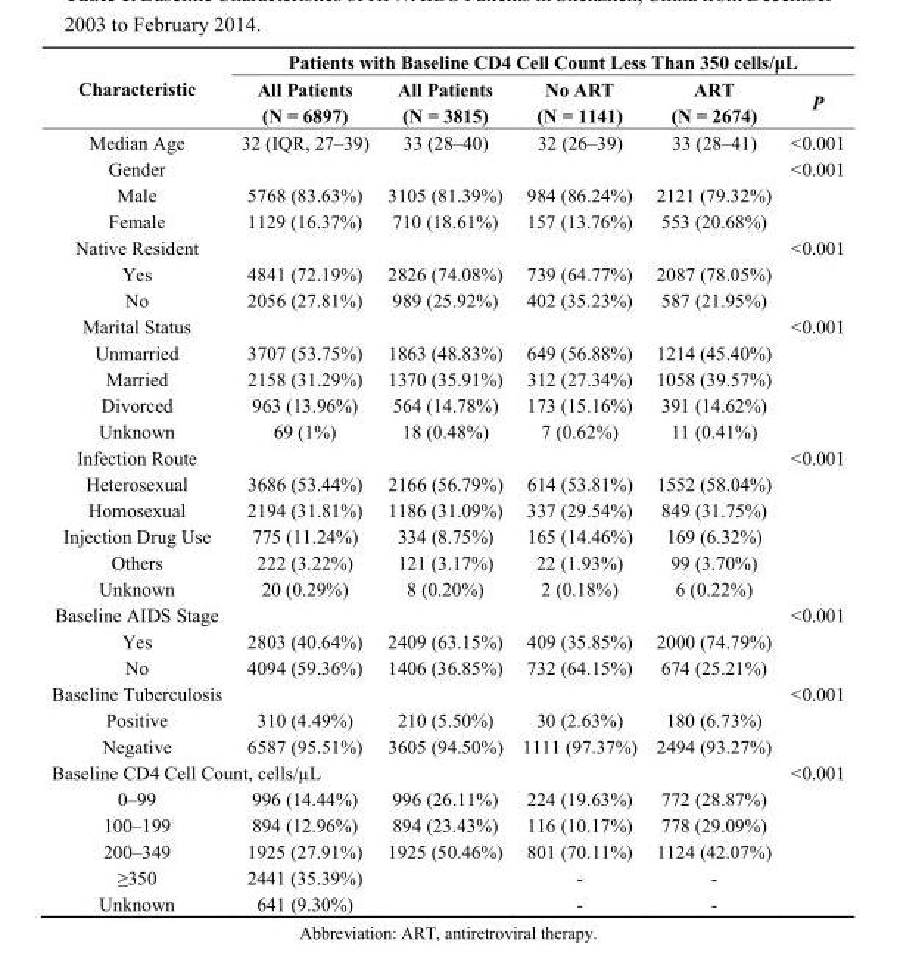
<table><thead><tr><td rowspan="2">Characteristic</td><td colspan="5">Patients with Baseline CD4 Cell Count Less Than 350 cells/μL</td></tr><tr><td>All Patients (N = 6897)</td><td>All Patients (N = 3815)</td><td>No ART (N = 1141)</td><td>ART (N = 2674)</td><td>P</td></tr></thead><tbody><tr><td>Median Age</td><td>32 (IQR, 27–39)</td><td>33 (28–40)</td><td>32 (26–39)</td><td>33 (28–41)</td><td>&lt;0.001</td></tr><tr><td>Gender</td><td></td><td></td><td></td><td></td><td>&lt;0.001</td></tr><tr><td>Male</td><td>5768 (83.63%)</td><td>3105 (81.39%)</td><td>984 (86.24%)</td><td>2121 (79.32%)</td><td></td></tr><tr><td>Female</td><td>1129 (16.37%)</td><td>710 (18.61%)</td><td>157 (13.76%)</td><td>553 (20.68%)</td><td></td></tr><tr><td>Native Resident</td><td></td><td></td><td></td><td></td><td>&lt;0.001</td></tr><tr><td>Yes</td><td>4841 (72.19%)</td><td>2826 (74.08%)</td><td>739 (64.77%)</td><td>2087 (78.05%)</td><td></td></tr><tr><td>No</td><td>2056 (27.81%)</td><td>989 (25.92%)</td><td>402 (35.23%)</td><td>587 (21.95%)</td><td></td></tr><tr><td>Marital Status</td><td></td><td></td><td></td><td></td><td>&lt;0.001</td></tr><tr><td>Unmarried</td><td>3707 (53.75%)</td><td>1863 (48.83%)</td><td>649 (56.88%)</td><td>1214 (45.40%)</td><td></td></tr><tr><td>Married</td><td>2158 (31.29%)</td><td>1370 (35.91%)</td><td>312 (27.34%)</td><td>1058 (39.57%)</td><td></td></tr><tr><td>Divorced</td><td>963 (13.96%)</td><td>564 (14.78%)</td><td>173 (15.16%)</td><td>391 (14.62%)</td><td></td></tr><tr><td>Unknown</td><td>69 (1%)</td><td>18 (0.48%)</td><td>7 (0.62%)</td><td>11 (0.41%)</td><td></td></tr><tr><td>Infection Route</td><td></td><td></td><td></td><td></td><td>&lt;0.001</td></tr><tr><td>Heterosexual</td><td>3686 (53.44%)</td><td>2166 (56.79%)</td><td>614 (53.81%)</td><td>1552 (58.04%)</td><td></td></tr><tr><td>Homosexual</td><td>2194 (31.81%)</td><td>1186 (31.09%)</td><td>337 (29.54%)</td><td>849 (31.75%)</td><td></td></tr><tr><td>Injection Drug Use</td><td>775 (11.24%)</td><td>334 (8.75%)</td><td>165 (14.46%)</td><td>169 (6.32%)</td><td></td></tr><tr><td>Others</td><td>222 (3.22%)</td><td>121 (3.17%)</td><td>22 (1.93%)</td><td>99 (3.70%)</td><td></td></tr><tr><td>Unknown</td><td>20 (0.29%)</td><td>8 (0.20%)</td><td>2 (0.18%)</td><td>6 (0.22%)</td><td></td></tr><tr><td>Baseline AIDS Stage</td><td></td><td></td><td></td><td></td><td>&lt;0.001</td></tr><tr><td>Yes</td><td>2803 (40.64%)</td><td>2409 (63.15%)</td><td>409 (35.85%)</td><td>2000 (74.79%)</td><td></td></tr><tr><td>No</td><td>4094 (59.36%)</td><td>1406 (36.85%)</td><td>732 (64.15%)</td><td>674 (25.21%)</td><td></td></tr><tr><td>Baseline Tuberculosis</td><td></td><td></td><td></td><td></td><td>&lt;0.001</td></tr><tr><td>Positive</td><td>310 (4.49%)</td><td>210 (5.50%)</td><td>30 (2.63%)</td><td>180 (6.73%)</td><td></td></tr><tr><td>Negative</td><td>6587 (95.51%)</td><td>3605 (94.50%)</td><td>1111 (97.37%)</td><td>2494 (93.27%)</td><td></td></tr><tr><td colspan="2">Baseline CD4 Cell Count, cells/µL</td><td></td><td></td><td></td><td>&lt;0.001</td></tr><tr><td>0–99</td><td>996 (14.44%)</td><td>996 (26.11%)</td><td>224 (19.63%)</td><td>772 (28.87%)</td><td></td></tr><tr><td>100–199</td><td>894 (12.96%)</td><td>894 (23.43%)</td><td>116 (10.17%)</td><td>778 (29.09%)</td><td></td></tr><tr><td>200–349</td><td>1925 (27.91%)</td><td>1925 (50.46%)</td><td>801 (70.11%)</td><td>1124 (42.07%)</td><td></td></tr><tr><td>≥350</td><td>2441 (35.39%)</td><td></td><td>-</td><td>-</td><td></td></tr><tr><td>Unknown</td><td>641 (9.30%)</td><td></td><td>-</td><td>-</td><td></td></tr></tbody></table>